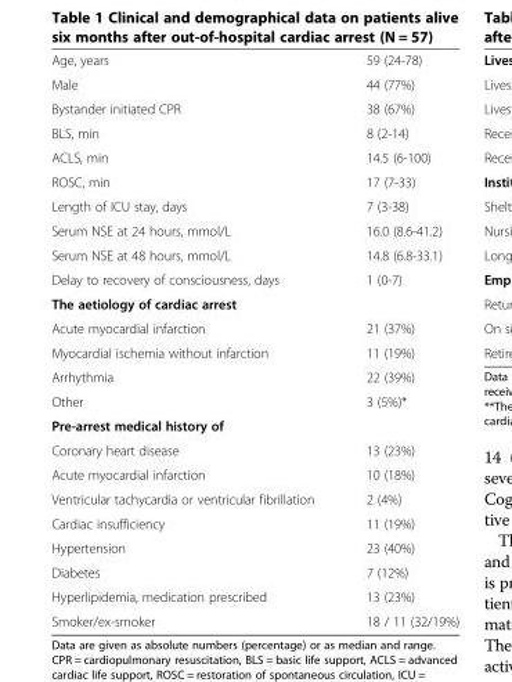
<table><tbody><tr><td>Age, years</td><td>59 (24-78)</td></tr><tr><td>Male</td><td>44 (77%)</td></tr><tr><td>Bystander initiated CPR</td><td>38 (67%)</td></tr><tr><td>BLS, min</td><td>8 (2-14)</td></tr><tr><td>ACLS, min</td><td>14.5 (6-100)</td></tr><tr><td>ROSC, min</td><td>17 (7-33)</td></tr><tr><td>Length of ICU stay, days</td><td>7 (3-38)</td></tr><tr><td>Serum NSE at 24 hours, mmol/L</td><td>16.0 (8.6-41.2)</td></tr><tr><td>Serum NSE at 48 hours, mmol/L</td><td>14.8 (6.8-33.1)</td></tr><tr><td>Delay to recovery of consciousness, days</td><td>1 (0-7)</td></tr><tr><td colspan="2">The aetiology of cardiac arrest</td></tr><tr><td>Acute myocardial infarction</td><td>21 (37%)</td></tr><tr><td>Myocardial ischemia without infarction</td><td>11 (19%)</td></tr><tr><td>Arrhythmia</td><td>22 (39%)</td></tr><tr><td>Other</td><td>3 (5%)*</td></tr><tr><td colspan="2">Pre-arrest medical history of</td></tr><tr><td>Coronary heart disease</td><td>13 (23%)</td></tr><tr><td>Acute myocardial infarction</td><td>10 (18%)</td></tr><tr><td>Ventricular tachycardia or ventricular fibrillation</td><td>2 (4%)</td></tr><tr><td>Cardiac insufficiency</td><td>11 (19%)</td></tr><tr><td>Hypertension</td><td>23 (40%)</td></tr><tr><td>Diabetes</td><td>7 (12%)</td></tr><tr><td>Hyperlipidemia, medication prescribed</td><td>13 (23%)</td></tr><tr><td>Smoker/ex-smoker</td><td>18 / 11 (32/19%)</td></tr></tbody></table>